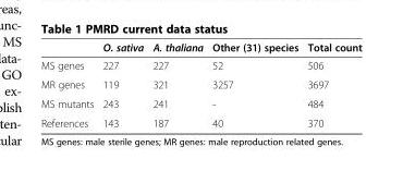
<table><thead><tr><td></td><td>O. sativa</td><td>A. thaliana</td><td>Other (31) species</td><td>Total count</td></tr></thead><tbody><tr><td>MS genes</td><td>227</td><td>227</td><td>52</td><td>506</td></tr><tr><td>MR genes</td><td>119</td><td>321</td><td>3257</td><td>3697</td></tr><tr><td>MS mutants</td><td>243</td><td>241</td><td>-</td><td>484</td></tr><tr><td>References</td><td>143</td><td>187</td><td>40</td><td>370</td></tr></tbody></table>